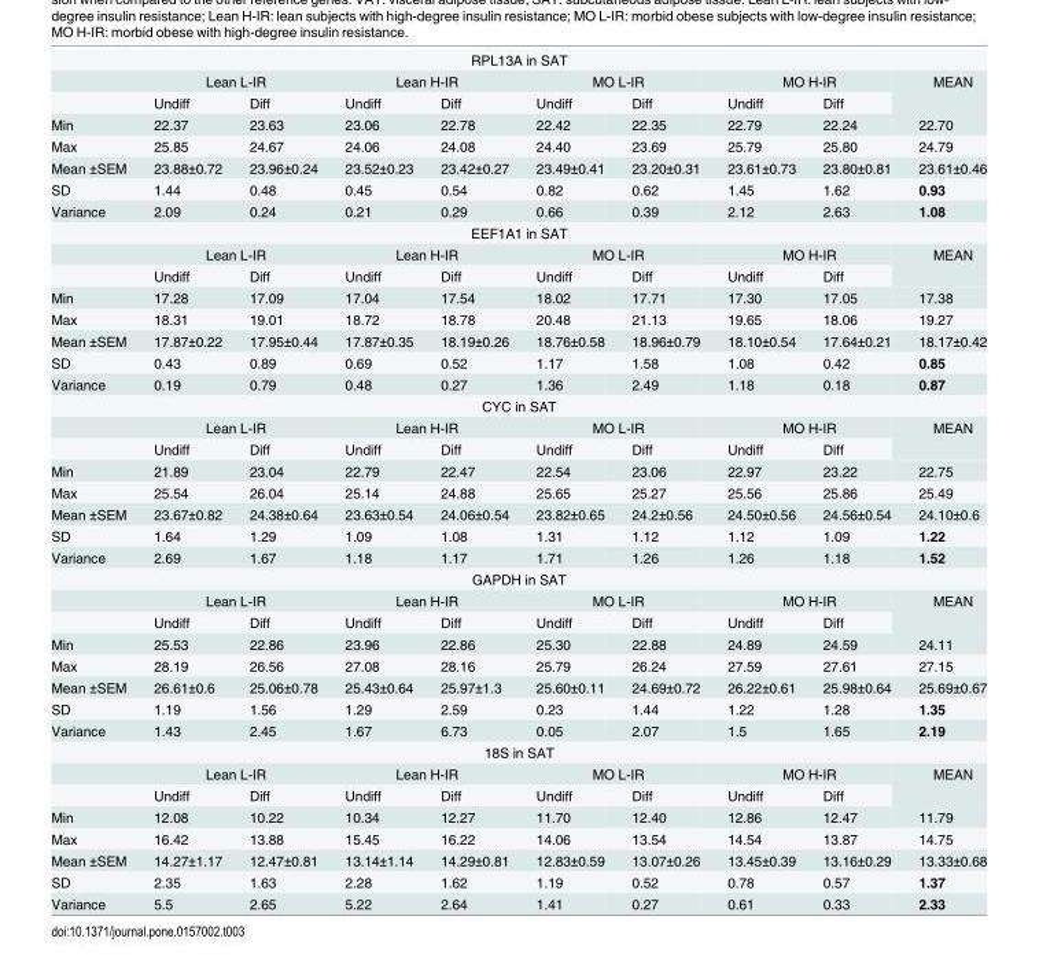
<table><tbody><tr><td colspan="10">RPL13A in SAT</td></tr><tr><td></td><td colspan="2">Lean L-IR</td><td colspan="2">Lean H-IR</td><td colspan="2">MO L-IR</td><td colspan="2">MO H-IR</td><td rowspan="2">MEAN</td></tr><tr><td></td><td>Undiff</td><td>Diff</td><td>Undiff</td><td>Diff</td><td>Undiff</td><td>Diff</td><td>Undiff</td><td>Diff</td></tr><tr><td>Min</td><td>22.37</td><td>23.63</td><td>23.06</td><td>22.78</td><td>22.42</td><td>22.35</td><td>22.79</td><td>22.24</td><td>22.70</td></tr><tr><td>Max</td><td>25.85</td><td>24.67</td><td>24.06</td><td>24.08</td><td>24.40</td><td>23.69</td><td>25.79</td><td>25.80</td><td>24.79</td></tr><tr><td>Mean ±SEM</td><td>23.88±0.72</td><td>23.96±0.24</td><td>23.52±0.23</td><td>23.42±0.27</td><td>23.49±0.41</td><td>23.20±0.31</td><td>23.61±0.73</td><td>23.80±0.81</td><td>23.61±0.46</td></tr><tr><td>SD</td><td>1.44</td><td>0.48</td><td>0.45</td><td>0.54</td><td>0.82</td><td>0.62</td><td>1.45</td><td>1.62</td><td>0.93</td></tr><tr><td>Variance</td><td>2.09</td><td>0.24</td><td>0.21</td><td>0.29</td><td>0.66</td><td>0.39</td><td>2.12</td><td>2.63</td><td>1.08</td></tr><tr><td colspan="10">EEF1A1 in SAT</td></tr><tr><td></td><td colspan="2">Lean L-IR</td><td colspan="2">Lean H-IR</td><td colspan="2">MO L-IR</td><td colspan="2">MO H-IR</td><td rowspan="2">MEAN</td></tr><tr><td></td><td>Undiff</td><td>Diff</td><td>Undiff</td><td>Diff</td><td>Undiff</td><td>Diff</td><td>Undiff</td><td>Diff</td></tr><tr><td>Min</td><td>17.28</td><td>17.09</td><td>17.04</td><td>17.54</td><td>18.02</td><td>17.71</td><td>17.30</td><td>17.05</td><td>17.38</td></tr><tr><td>Max</td><td>18.31</td><td>19.01</td><td>18.72</td><td>18.78</td><td>20.48</td><td>21.13</td><td>19.65</td><td>18.06</td><td>19.27</td></tr><tr><td>Mean ±SEM</td><td>17.87±0.22</td><td>17.95±0.44</td><td>17.87±0.35</td><td>18.19±0.26</td><td>18.76±0.58</td><td>18.96±0.79</td><td>18.10±0.54</td><td>17.64±0.21</td><td>18.17±0.42</td></tr><tr><td>SD</td><td>0.43</td><td>0.89</td><td>0.69</td><td>0.52</td><td>1.17</td><td>1.58</td><td>1.08</td><td>0.42</td><td>0.85</td></tr><tr><td>Variance</td><td>0.19</td><td>0.79</td><td>0.48</td><td>0.27</td><td>1.36</td><td>2.49</td><td>1.18</td><td>0.18</td><td>0.87</td></tr><tr><td colspan="10">CYC in SAT</td></tr><tr><td></td><td colspan="2">Lean L-IR</td><td colspan="2">Lean H-IR</td><td colspan="2">MO L-IR</td><td colspan="2">MO H-IR</td><td rowspan="2">MEAN</td></tr><tr><td></td><td>Undiff</td><td>Diff</td><td>Undiff</td><td>Diff</td><td>Undiff</td><td>Diff</td><td>Undiff</td><td>Diff</td></tr><tr><td>Min</td><td>21.89</td><td>23.04</td><td>22.79</td><td>22.47</td><td>22.54</td><td>23.06</td><td>22.97</td><td>23.22</td><td>22.75</td></tr><tr><td>Max</td><td>25.54</td><td>26.04</td><td>25.14</td><td>24.88</td><td>25.65</td><td>25.27</td><td>25.56</td><td>25.86</td><td>25.49</td></tr><tr><td>Mean ±SEM</td><td>23.67±0.82</td><td>24.38±0.64</td><td>23.63±0.54</td><td>24.06±0.54</td><td>23.82±0.65</td><td>24.2±0.56</td><td>24.50±0.56</td><td>24.56±0.54</td><td>24.10±0.6</td></tr><tr><td>SD</td><td>1.64</td><td>1.29</td><td>1.09</td><td>1.08</td><td>1.31</td><td>1.12</td><td>1.12</td><td>1.09</td><td>1.22</td></tr><tr><td>Variance</td><td>2.69</td><td>1.67</td><td>1.18</td><td>1.17</td><td>1.71</td><td>1.26</td><td>1.26</td><td>1.18</td><td>1.52</td></tr><tr><td colspan="10">GAPDH in SAT</td></tr><tr><td></td><td colspan="2">Lean L-IR</td><td colspan="2">Lean H-IR</td><td colspan="2">MO L-IR</td><td colspan="2">MO H-IR</td><td rowspan="2">MEAN</td></tr><tr><td></td><td>Undiff</td><td>Diff</td><td>Undiff</td><td>Diff</td><td>Undiff</td><td>Diff</td><td>Undiff</td><td>Diff</td></tr><tr><td>Min</td><td>25.53</td><td>22.86</td><td>23.96</td><td>22.86</td><td>25.30</td><td>22.88</td><td>24.89</td><td>24.59</td><td>24.11</td></tr><tr><td>Max</td><td>28.19</td><td>26.56</td><td>27.08</td><td>28.16</td><td>25.79</td><td>26.24</td><td>27.59</td><td>27.61</td><td>27.15</td></tr><tr><td>Mean ±SEM</td><td>26.61±0.6</td><td>25.06±0.78</td><td>25.43±0.64</td><td>25.97±1.3</td><td>25.60±0.11</td><td>24.69±0.72</td><td>26.22±0.61</td><td>25.98±0.64</td><td>25.69±0.67</td></tr><tr><td>SD</td><td>1.19</td><td>1.56</td><td>1.29</td><td>2.59</td><td>0.23</td><td>1.44</td><td>1.22</td><td>1.28</td><td>1.35</td></tr><tr><td>Variance</td><td>1.43</td><td>2.45</td><td>1.67</td><td>6.73</td><td>0.05</td><td>2.07</td><td>1.5</td><td>1.65</td><td>2.19</td></tr><tr><td colspan="10">18S in SAT</td></tr><tr><td></td><td colspan="2">Lean L-IR</td><td colspan="2">Lean H-IR</td><td colspan="2">MO L-IR</td><td colspan="2">MO H-IR</td><td rowspan="2">MEAN</td></tr><tr><td></td><td>Undiff</td><td>Diff</td><td>Undiff</td><td>Diff</td><td>Undiff</td><td>Diff</td><td>Undiff</td><td>Diff</td></tr><tr><td>Min</td><td>12.08</td><td>10.22</td><td>10.34</td><td>12.27</td><td>11.70</td><td>12.40</td><td>12.86</td><td>12.47</td><td>11.79</td></tr><tr><td>Max</td><td>16.42</td><td>13.88</td><td>15.45</td><td>16.22</td><td>14.06</td><td>13.54</td><td>14.54</td><td>13.87</td><td>14.75</td></tr><tr><td>Mean ±SEM</td><td>14.27±1.17</td><td>12.47±0.81</td><td>13.14±1.14</td><td>14.29±0.81</td><td>12.83±0.59</td><td>13.07±0.26</td><td>13.45±0.39</td><td>13.16±0.29</td><td>13.33±0.68</td></tr><tr><td>SD</td><td>2.35</td><td>1.63</td><td>2.28</td><td>1.62</td><td>1.19</td><td>0.52</td><td>0.78</td><td>0.57</td><td>1.37</td></tr><tr><td>Variance</td><td>5.5</td><td>2.65</td><td>5.22</td><td>2.64</td><td>1.41</td><td>0.27</td><td>0.61</td><td>0.33</td><td>2.33</td></tr></tbody></table>